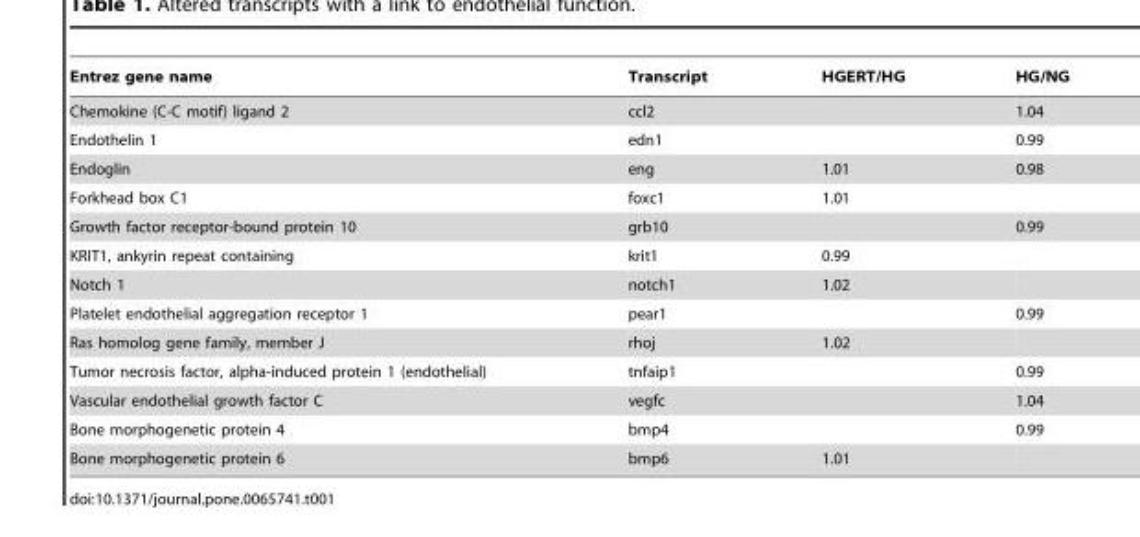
<table><thead><tr><td>Entrez gene name</td><td>Transcript</td><td>HGERT/HG</td><td>HG/NG</td></tr></thead><tbody><tr><td>Chemokine (C-C motif) ligand 2</td><td>ccl2</td><td></td><td>1.04</td></tr><tr><td>Endothelin 1</td><td>edn1</td><td></td><td>0.99</td></tr><tr><td>Endoglin</td><td>eng</td><td>1.01</td><td>0.98</td></tr><tr><td>Forkhead box C1</td><td>foxc1</td><td>1.01</td><td></td></tr><tr><td>Growth factor receptor-bound protein 10</td><td>grb10</td><td></td><td>0.99</td></tr><tr><td>KRIT1, ankyrin repeat containing</td><td>krit1</td><td>0.99</td><td></td></tr><tr><td>Notch 1</td><td>notch1</td><td>1.02</td><td></td></tr><tr><td>Platelet endothelial aggregation receptor 1</td><td>pear1</td><td></td><td>0.99</td></tr><tr><td>Ras homolog gene family, member J</td><td>rhoj</td><td>1.02</td><td></td></tr><tr><td>Tumor necrosis factor, alpha-induced protein 1 (endothelial)</td><td>tnfaip1</td><td></td><td>0.99</td></tr><tr><td>Vascular endothelial growth factor C</td><td>vegfc</td><td></td><td>1.04</td></tr><tr><td>Bone morphogenetic protein 4</td><td>bmp4</td><td></td><td>0.99</td></tr><tr><td>Bone morphogenetic protein 6</td><td>bmp6</td><td>1.01</td><td></td></tr></tbody></table>